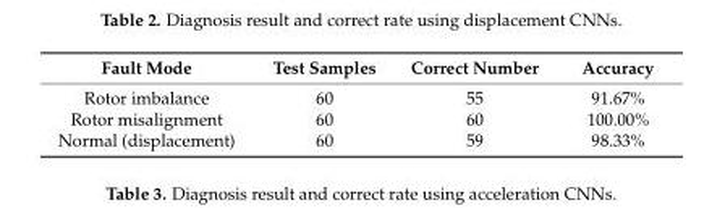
<table><thead><tr><td>Fault Mode</td><td>Test Samples</td><td>Correct Number</td><td>Accuracy</td></tr></thead><tbody><tr><td>Rotor imbalance</td><td>60</td><td>55</td><td>91.67%</td></tr><tr><td>Rotor misalignment</td><td>60</td><td>60</td><td>100.00%</td></tr><tr><td>Normal (displacement)</td><td>60</td><td>59</td><td>98.33%</td></tr></tbody></table>